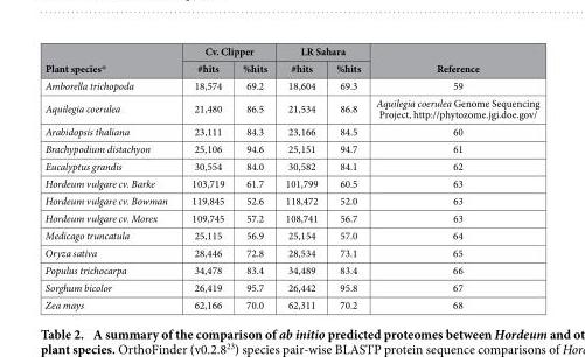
<table><thead><tr><td rowspan="2">Plant species*</td><td colspan="2">Cv. Clipper</td><td colspan="2">LR Sahara</td><td rowspan="2">Reference</td></tr><tr><td>#hits</td><td>%hits</td><td>#hits</td><td>%hits</td></tr></thead><tbody><tr><td>Amborella trichopoda</td><td>18,574</td><td>69.2</td><td>18,604</td><td>69.3</td><td>59</td></tr><tr><td>Aquilegia coerulea</td><td>21,480</td><td>86.5</td><td>21,534</td><td>86.8</td><td>Aquilegia coerulea Genome Sequencing Project, http://phytozome.jgi.doe.gov/</td></tr><tr><td>Arabidopsis thaliana</td><td>23,111</td><td>84.3</td><td>23,166</td><td>84.5</td><td>60</td></tr><tr><td>Brachypodium distachyon</td><td>25,106</td><td>94.6</td><td>25,151</td><td>94.7</td><td>61</td></tr><tr><td>Eucalyptus grandis</td><td>30,554</td><td>84.0</td><td>30,582</td><td>84.1</td><td>62</td></tr><tr><td>Hordeum vulgare cv. Barke</td><td>103,719</td><td>61.7</td><td>101,799</td><td>60.5</td><td>63</td></tr><tr><td>Hordeum vulgare cv. Bowman</td><td>119,845</td><td>52.6</td><td>118,472</td><td>52.0</td><td>63</td></tr><tr><td>Hordeum vulgare cv. Morex</td><td>109,745</td><td>57.2</td><td>108,741</td><td>56.7</td><td>63</td></tr><tr><td>Medicago truncatula</td><td>25,115</td><td>56.9</td><td>25,154</td><td>57.0</td><td>64</td></tr><tr><td>Oryza sativa</td><td>28,446</td><td>72.8</td><td>28,534</td><td>73.1</td><td>65</td></tr><tr><td>Populus trichocarpa</td><td>34,478</td><td>83.4</td><td>34,489</td><td>83.4</td><td>66</td></tr><tr><td>Sorghum bicolor</td><td>26,419</td><td>95.7</td><td>26,442</td><td>95.8</td><td>67</td></tr><tr><td>Zea mays</td><td>62,166</td><td>70.0</td><td>62,311</td><td>70.2</td><td>68</td></tr></tbody></table>